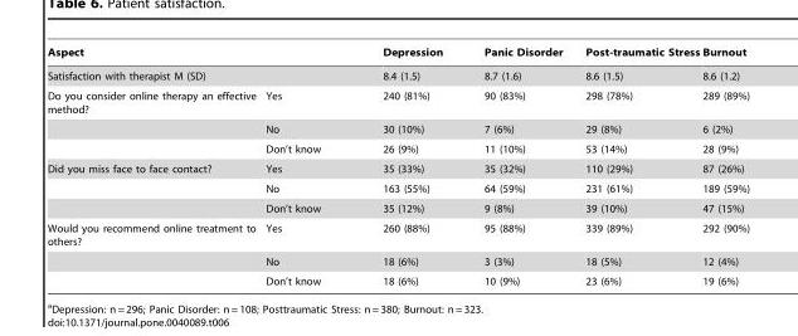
<table><thead><tr><td rowspan="2" colspan="2">Aspect Satisfaction with therapist M (SD)</td><td rowspan="3">Depression 8.4 (1.5) 240 (81%)</td><td rowspan="3">Panic Disorder 8.7 (1.6) 90 (83%)</td><td rowspan="3">Post-traumatic Stress 8.6 (1.5) 298 (78%)</td><td rowspan="3">Burnout 8.6 (1.2) 289 (89%)</td></tr><tr></tr><tr><td>Do you consider online therapy an effective method?</td><td>Yes</td></tr></thead><tbody><tr><td></td><td>No</td><td>30 (10%)</td><td>7 (6%)</td><td>29 (8%)</td><td>6 (2%)</td></tr><tr><td></td><td>Don’t know</td><td>26 (9%)</td><td>11 (10%)</td><td>53 (14%)</td><td>28 (9%)</td></tr><tr><td rowspan="3">Did you miss face to face contact?</td><td>Yes</td><td>35 (33%)</td><td>35 (32%)</td><td>110 (29%)</td><td>87 (26%)</td></tr><tr><td>No</td><td>163 (55%)</td><td>64 (59%)</td><td>231 (61%)</td><td>189 (59%)</td></tr><tr><td>Don’t know</td><td>35 (12%)</td><td>9 (8%)</td><td>39 (10%)</td><td>47 (15%)</td></tr><tr><td rowspan="3">Would you recommend online treatment to others?</td><td>Yes</td><td>260 (88%)</td><td>95 (88%)</td><td>339 (89%)</td><td>292 (90%)</td></tr><tr><td>No</td><td>18 (6%)</td><td>3 (3%)</td><td>18 (5%)</td><td>12 (4%)</td></tr><tr><td>Don’t know</td><td>18 (6%)</td><td>10 (9%)</td><td>23 (6%)</td><td>19 (6%)</td></tr></tbody></table>